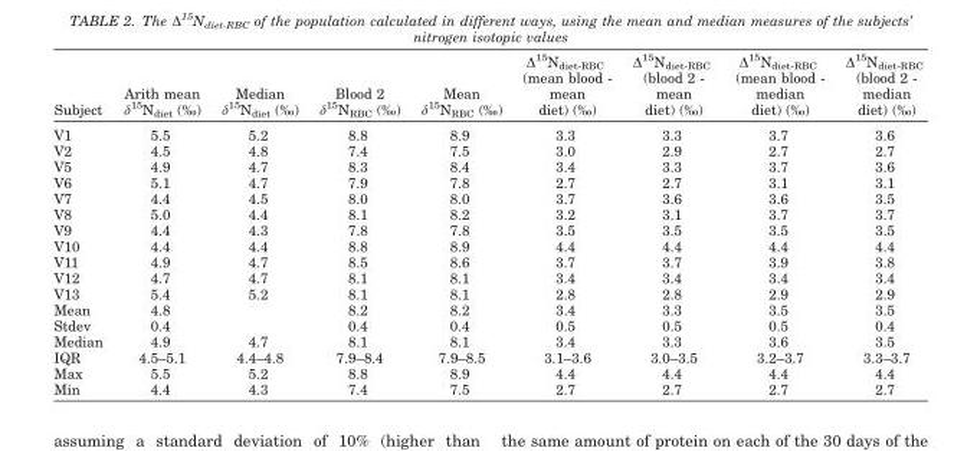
<table><thead><tr><td>Subject</td><td>Arith mean δ<sup>15</sup>N<sub>diet</sub> (‰)</td><td>Median δ<sup>15</sup>N<sub>diet</sub> (‰)</td><td>Blood 2 δ<sup>15</sup>N<sub>RBC</sub> (‰)</td><td>Mean δ<sup>15</sup>N<sub>RBC</sub> (‰)</td><td>Δ<sup>15</sup>N<sub>diet-RBC</sub> (mean blood - mean diet) (‰)</td><td>Δ<sup>15</sup>N<sub>diet-RBC</sub> (blood 2 - mean diet) (‰)</td><td>Δ<sup>15</sup>N<sub>diet-RBC</sub> (mean blood - median diet) (‰)</td><td>Δ<sup>15</sup>N<sub>diet-RBC</sub> (blood 2 - median diet) (‰)</td></tr></thead><tbody><tr><td>V1</td><td>5.5</td><td>5.2</td><td>8.8</td><td>8.9</td><td>3.3</td><td>3.3</td><td>3.7</td><td>3.6</td></tr><tr><td>V2</td><td>4.5</td><td>4.8</td><td>7.4</td><td>7.5</td><td>3.0</td><td>2.9</td><td>2.7</td><td>2.7</td></tr><tr><td>V5</td><td>4.9</td><td>4.7</td><td>8.3</td><td>8.4</td><td>3.4</td><td>3.3</td><td>3.7</td><td>3.6</td></tr><tr><td>V6</td><td>5.1</td><td>4.7</td><td>7.9</td><td>7.8</td><td>2.7</td><td>2.7</td><td>3.1</td><td>3.1</td></tr><tr><td>V7</td><td>4.4</td><td>4.5</td><td>8.0</td><td>8.0</td><td>3.7</td><td>3.6</td><td>3.6</td><td>3.5</td></tr><tr><td>V8</td><td>5.0</td><td>4.4</td><td>8.1</td><td>8.2</td><td>3.2</td><td>3.1</td><td>3.7</td><td>3.7</td></tr><tr><td>V9</td><td>4.4</td><td>4.3</td><td>7.8</td><td>7.8</td><td>3.5</td><td>3.5</td><td>3.5</td><td>3.5</td></tr><tr><td>V10</td><td>4.4</td><td>4.4</td><td>8.8</td><td>8.9</td><td>4.4</td><td>4.4</td><td>4.4</td><td>4.4</td></tr><tr><td>V11</td><td>4.9</td><td>4.7</td><td>8.5</td><td>8.6</td><td>3.7</td><td>3.7</td><td>3.9</td><td>3.8</td></tr><tr><td>V12</td><td>4.7</td><td>4.7</td><td>8.1</td><td>8.1</td><td>3.4</td><td>3.4</td><td>3.4</td><td>3.4</td></tr><tr><td>V13</td><td>5.4</td><td>5.2</td><td>8.1</td><td>8.1</td><td>2.8</td><td>2.8</td><td>2.9</td><td>2.9</td></tr><tr><td>Mean</td><td>4.8</td><td></td><td>8.2</td><td>8.2</td><td>3.4</td><td>3.3</td><td>3.5</td><td>3.5</td></tr><tr><td>Stdev</td><td>0.4</td><td></td><td>0.4</td><td>0.4</td><td>0.5</td><td>0.5</td><td>0.5</td><td>0.4</td></tr><tr><td>Median</td><td>4.9</td><td>4.7</td><td>8.1</td><td>8.1</td><td>3.4</td><td>3.3</td><td>3.6</td><td>3.5</td></tr><tr><td>IQR</td><td>4.5–5.1</td><td>4.4–4.8</td><td>7.9–8.4</td><td>7.9–8.5</td><td>3.1–3.6</td><td>3.0–3.5</td><td>3.2–3.7</td><td>3.3–3.7</td></tr><tr><td>Max</td><td>5.5</td><td>5.2</td><td>8.8</td><td>8.9</td><td>4.4</td><td>4.4</td><td>4.4</td><td>4.4</td></tr><tr><td>Min</td><td>4.4</td><td>4.3</td><td>7.4</td><td>7.5</td><td>2.7</td><td>2.7</td><td>2.7</td><td>2.7</td></tr></tbody></table>